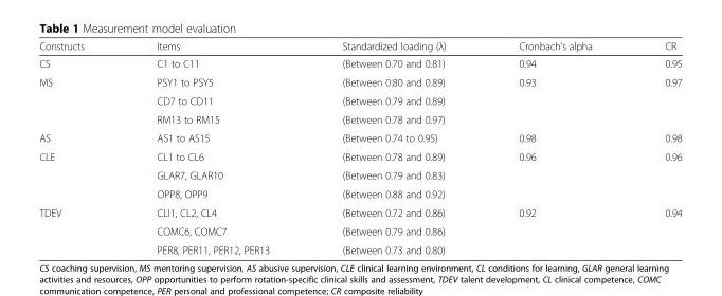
<table><thead><tr><td>Constructs</td><td>Items</td><td>Standardized loading (λ)</td><td>Cronbach’s alpha</td><td>CR</td></tr></thead><tbody><tr><td>CS</td><td>C1 to C11</td><td>(Between 0.70 and 0.81)</td><td>0.94</td><td>0.95</td></tr><tr><td rowspan="3">MS</td><td>PSY1 to PSY5</td><td>(Between 0.80 and 0.89)</td><td rowspan="3">0.93</td><td rowspan="3">0.97</td></tr><tr><td>CD7 to CD11</td><td>(Between 0.79 and 0.89)</td></tr><tr><td>RM13 to RM15</td><td>(Between 0.78 and 0.97)</td></tr><tr><td>AS</td><td>AS1 to AS15</td><td>(Between 0.74 to 0.95)</td><td>0.98</td><td>0.98</td></tr><tr><td rowspan="3">CLE</td><td>CL1 to CL6</td><td>(Between 0.78 and 0.89)</td><td rowspan="3">0.96</td><td rowspan="3">0.96</td></tr><tr><td>GLAR7, GLAR10</td><td>(Between 0.79 and 0.83)</td></tr><tr><td>OPP8, OPP9</td><td>(Between 0.88 and 0.92)</td></tr><tr><td rowspan="3">TDEV</td><td>CLI1, CL2, CL4</td><td>(Between 0.72 and 0.86)</td><td>0.92</td><td>0.94</td></tr><tr><td>COMC6, COMC7</td><td>(Between 0.79 and 0.86)</td><td></td><td></td></tr><tr><td>PER8, PER11, PER12, PER13</td><td>(Between 0.73 and 0.80)</td><td></td><td></td></tr></tbody></table>